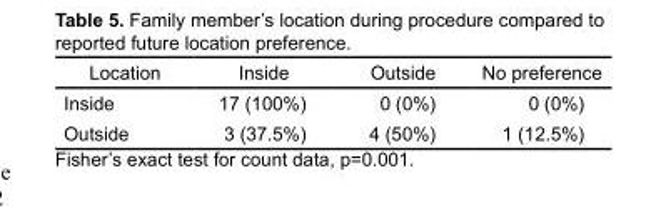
<table><thead><tr><td>Location</td><td>Inside</td><td>Outside</td><td>No preference</td></tr></thead><tbody><tr><td>Inside</td><td>17 (100%)</td><td>0 (0%)</td><td>0 (0%)</td></tr><tr><td>Outside</td><td>3 (37.5%)</td><td>4 (50%)</td><td>1 (12.5%)</td></tr></tbody></table>